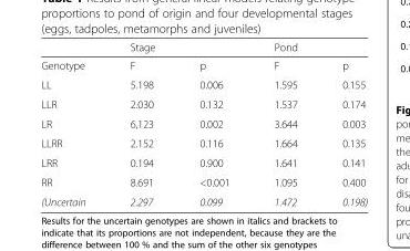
<table><thead><tr><td></td><td>Stage</td><td></td><td>Pond</td><td></td></tr></thead><tbody><tr><td>Genotype</td><td>F</td><td>p</td><td>F</td><td>p</td></tr><tr><td>LL</td><td>5.198</td><td>0.006</td><td>1.595</td><td>0.155</td></tr><tr><td>LLR</td><td>2.030</td><td>0.132</td><td>1.537</td><td>0.174</td></tr><tr><td>LR</td><td>6,123</td><td>0.002</td><td>3.644</td><td>0.003</td></tr><tr><td>LLRR</td><td>2.152</td><td>0.116</td><td>1.664</td><td>0.135</td></tr><tr><td>LRR</td><td>0.194</td><td>0.900</td><td>1.641</td><td>0.141</td></tr><tr><td>RR</td><td>8.691</td><td>&lt;0.001</td><td>1.095</td><td>0.400</td></tr><tr><td>(Uncertain</td><td>2.297</td><td>0.099</td><td>1.472</td><td>0.198)</td></tr></tbody></table>